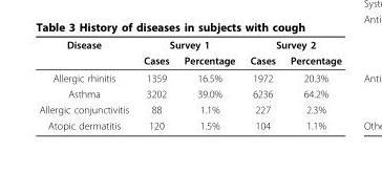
<table><thead><tr><td rowspan="2">Disease</td><td colspan="2">Survey 1</td><td colspan="2">Survey 2</td></tr><tr><td>Cases</td><td>Percentage</td><td>Cases</td><td>Percentage</td></tr></thead><tbody><tr><td>Allergic rhinitis</td><td>1359</td><td>16.5%</td><td>1972</td><td>20.3%</td></tr><tr><td>Asthma</td><td>3202</td><td>39.0%</td><td>6236</td><td>64.2%</td></tr><tr><td>Allergic conjunctivitis</td><td>88</td><td>1.1%</td><td>227</td><td>2.3%</td></tr><tr><td>Atopic dermatitis</td><td>120</td><td>1.5%</td><td>104</td><td>1.1%</td></tr></tbody></table>